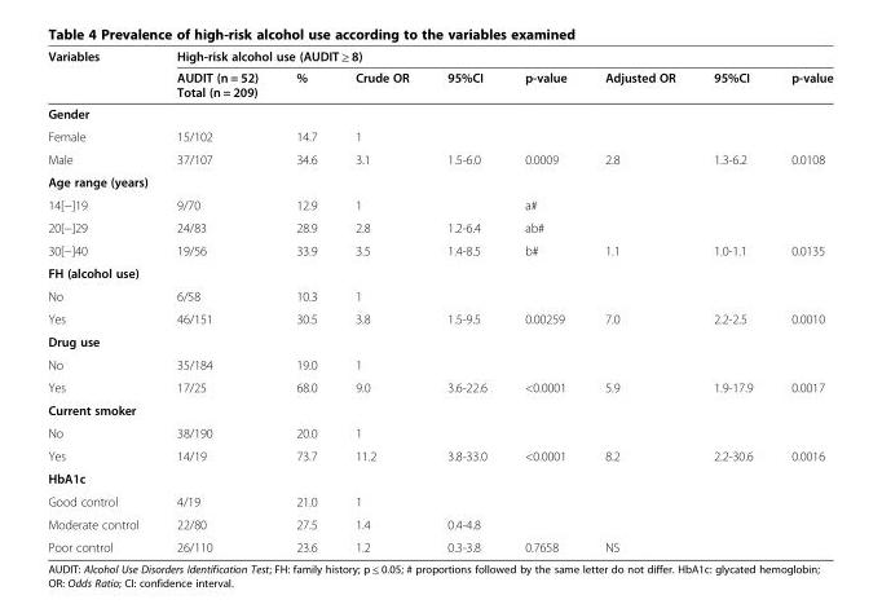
<table><thead><tr><td rowspan="2">Variables</td><td colspan="8">High-risk alcohol use (AUDIT ≥ 8)</td></tr><tr><td>AUDIT (n = 52) Total (n = 209)</td><td>%</td><td>Crude OR</td><td>95%CI</td><td>p-value</td><td>Adjusted OR</td><td>95%CI</td><td>p-value</td></tr></thead><tbody><tr><td colspan="9">Gender</td></tr><tr><td>Female</td><td>15/102</td><td>14.7</td><td>1</td><td></td><td></td><td></td><td></td><td></td></tr><tr><td>Male</td><td>37/107</td><td>34.6</td><td>3.1</td><td>1.5-6.0</td><td>0.0009</td><td>2.8</td><td>1.3-6.2</td><td>0.0108</td></tr><tr><td colspan="9">Age range (years)</td></tr><tr><td>14[−]19</td><td>9/70</td><td>12.9</td><td>1</td><td></td><td>a#</td><td></td><td></td><td></td></tr><tr><td>20[−]29</td><td>24/83</td><td>28.9</td><td>2.8</td><td>1.2-6.4</td><td>ab#</td><td></td><td></td><td></td></tr><tr><td>30[−]40</td><td>19/56</td><td>33.9</td><td>3.5</td><td>1.4-8.5</td><td>b#</td><td>1.1</td><td>1.0-1.1</td><td>0.0135</td></tr><tr><td colspan="9">FH (alcohol use)</td></tr><tr><td>No</td><td>6/58</td><td>10.3</td><td>1</td><td></td><td></td><td></td><td></td><td></td></tr><tr><td>Yes</td><td>46/151</td><td>30.5</td><td>3.8</td><td>1.5-9.5</td><td>0.00259</td><td>7.0</td><td>2.2-2.5</td><td>0.0010</td></tr><tr><td colspan="9">Drug use</td></tr><tr><td>No</td><td>35/184</td><td>19.0</td><td>1</td><td></td><td></td><td></td><td></td><td></td></tr><tr><td>Yes</td><td>17/25</td><td>68.0</td><td>9.0</td><td>3.6-22.6</td><td>&lt;0.0001</td><td>5.9</td><td>1.9-17.9</td><td>0.0017</td></tr><tr><td colspan="9">Current smoker</td></tr><tr><td>No</td><td>38/190</td><td>20.0</td><td>1</td><td></td><td></td><td></td><td></td><td></td></tr><tr><td>Yes</td><td>14/19</td><td>73.7</td><td>11.2</td><td>3.8-33.0</td><td>&lt;0.0001</td><td>8.2</td><td>2.2-30.6</td><td>0.0016</td></tr><tr><td colspan="9">HbA1c</td></tr><tr><td>Good control</td><td>4/19</td><td>21.0</td><td>1</td><td></td><td></td><td></td><td></td><td></td></tr><tr><td>Moderate control</td><td>22/80</td><td>27.5</td><td>1.4</td><td>0.4-4.8</td><td></td><td></td><td></td><td></td></tr><tr><td>Poor control</td><td>26/110</td><td>23.6</td><td>1.2</td><td>0.3-3.8</td><td>0.7658</td><td>NS</td><td></td><td></td></tr></tbody></table>